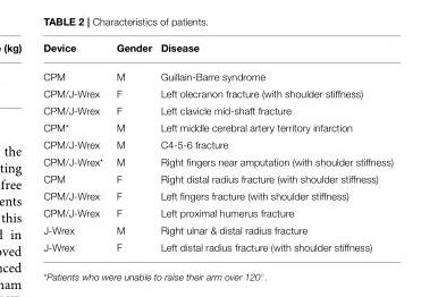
<table><thead><tr><td>Device</td><td>Gender</td><td>Disease</td></tr></thead><tbody><tr><td>CPM</td><td>M</td><td>Guillain-Barre syndrome</td></tr><tr><td>CPM/J-Wrex</td><td>F</td><td>Left olecranon fracture (with shoulder stiffness)</td></tr><tr><td>CPM/J-Wrex</td><td>F</td><td>Left clavicle mid-shaft fracture</td></tr><tr><td>CPM*</td><td>M</td><td>Left middle cerebral artery territory infarction</td></tr><tr><td>CPM/J-Wrex</td><td>M</td><td>C4-5-6 fracture</td></tr><tr><td>CPM/J-Wrex*</td><td>M</td><td>Right fingers near amputation (with shoulder stiffness)</td></tr><tr><td>CPM</td><td>F</td><td>Right distal radius fracture (with shoulder stiffness)</td></tr><tr><td>CPM/J-Wrex</td><td>F</td><td>Left fingers fracture (with shoulder stiffness)</td></tr><tr><td>CPM/J-Wrex</td><td>F</td><td>Left proximal humerus fracture</td></tr><tr><td>J-Wrex</td><td>M</td><td>Right ulnar &amp; distal radius fracture</td></tr><tr><td>J-Wrex</td><td>F</td><td>Left distal radius fracture (with shoulder stiffness)</td></tr></tbody></table>